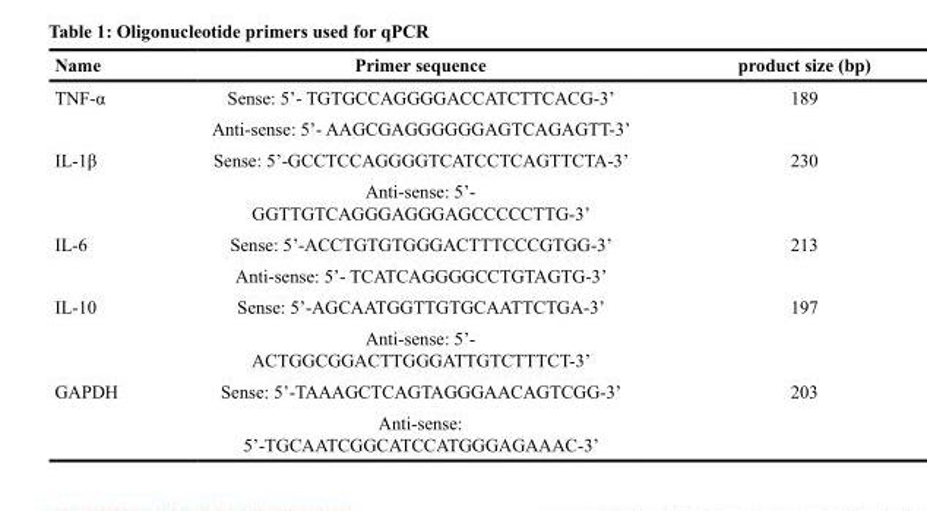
<table><thead><tr><td>Name</td><td>Primer sequence</td><td>product size (bp)</td></tr></thead><tbody><tr><td rowspan="2">TNF-α</td><td>Sense: 5’- TGTGCCAGGGGACCATCTTCACG-3’</td><td>189</td></tr><tr><td>Anti-sense: 5’- AAGCGAGGGGGGAGTCAGAGTT-3’</td><td></td></tr><tr><td rowspan="2">IL-1β</td><td>Sense: 5’-GCCTCCAGGGGTCATCCTCAGTTCTA-3’</td><td>230</td></tr><tr><td>Anti-sense: 5’- GGTTGTCAGGGAGGGAGCCCCCTTG-3’</td><td></td></tr><tr><td rowspan="2">IL-6</td><td>Sense: 5’-ACCTGTGTGGGACTTTCCCGTGG-3’</td><td>213</td></tr><tr><td>Anti-sense: 5’- TCATCAGGGGCCTGTAGTG-3’</td><td></td></tr><tr><td rowspan="2">IL-10</td><td>Sense: 5’-AGCAATGGTTGTGCAATTCTGA-3’</td><td>197</td></tr><tr><td>Anti-sense: 5’- ACTGGCGGACTTGGGATTGTCTTTCT-3’</td><td></td></tr><tr><td rowspan="2">GAPDH</td><td>Sense: 5’-TAAAGCTCAGTAGGGAACAGTCGG-3’</td><td>203</td></tr><tr><td>Anti-sense: 5’-TGCAATCGGCATCCATGGGAGAAAC-3’</td><td></td></tr></tbody></table>